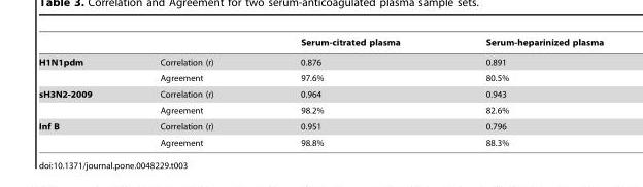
<table><thead><tr><td></td><td></td><td>Serum-citrated plasma</td><td>Serum-heparinized plasma</td></tr></thead><tbody><tr><td rowspan="2">H1N1pdm</td><td>Correlation (r)</td><td>0.876</td><td>0.891</td></tr><tr><td>Agreement</td><td>97.6%</td><td>80.5%</td></tr><tr><td rowspan="2">sH3N2-2009</td><td>Correlation (r)</td><td>0.964</td><td>0.943</td></tr><tr><td>Agreement</td><td>98.2%</td><td>82.6%</td></tr><tr><td rowspan="2">Inf B</td><td>Correlation (r)</td><td>0.951</td><td>0.796</td></tr><tr><td>Agreement</td><td>98.8%</td><td>88.3%</td></tr></tbody></table>